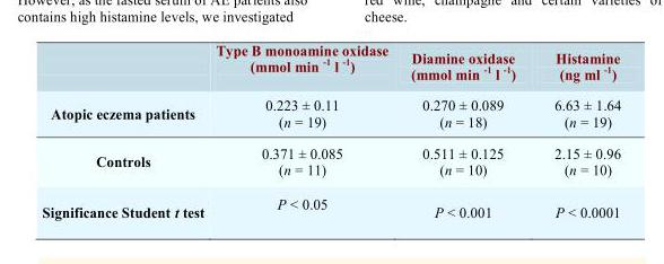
<table><thead><tr><td></td><td>Type B monoamine oxidase (mmol min <sup>-1</sup> l <sup>-1</sup>)</td><td>Diamine oxidase (mmol min <sup>-1</sup> l <sup>-1</sup>)</td><td>Histamine (ng ml <sup>-1</sup>)</td></tr></thead><tbody><tr><td>Atopic eczema patients</td><td>0.223 ± 0.11 (n = 19)</td><td>0.270 ± 0.089 (n = 18)</td><td>6.63 ± 1.64 (n = 19)</td></tr><tr><td>Controls</td><td>0.371 ± 0.085 (n = 11)</td><td>0.511 ± 0.125 (n = 10)</td><td>2.15 ± 0.96 (n = 10)</td></tr><tr><td>Significance Student t test</td><td>P &lt; 0.05</td><td>P &lt; 0.001</td><td>P &lt; 0.0001</td></tr></tbody></table>